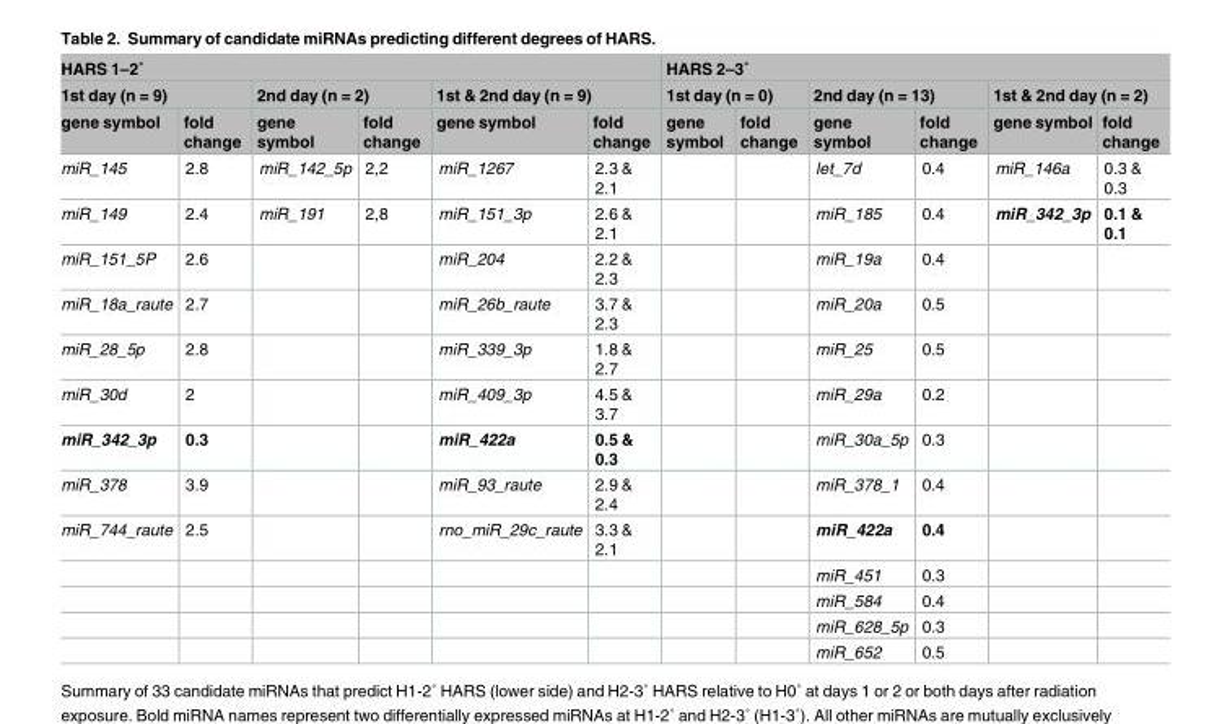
<table><thead><tr><td colspan="6">HARS 1–2˚</td><td colspan="6">HARS 2–3˚</td></tr><tr><td colspan="2">1st day (n = 9)</td><td colspan="2">2nd day (n = 2)</td><td colspan="2">1st &amp; 2nd day (n = 9)</td><td colspan="2">1st day (n = 0)</td><td colspan="2">2nd day (n = 13)</td><td colspan="2">1st &amp; 2nd day (n = 2)</td></tr><tr><td>gene symbol</td><td>fold change</td><td>gene symbol</td><td>fold change</td><td>gene symbol</td><td>fold change</td><td>gene symbol</td><td>fold change</td><td>gene symbol</td><td>fold change</td><td>gene symbol</td><td>fold change</td></tr></thead><tbody><tr><td>miR_145</td><td>2.8</td><td>miR_142_5p</td><td>2,2</td><td>miR_1267</td><td>2.3 &amp; 2.1</td><td></td><td></td><td>let_7d</td><td>0.4</td><td>miR_146a</td><td>0.3 &amp; 0.3</td></tr><tr><td>miR_149</td><td>2.4</td><td>miR_191</td><td>2,8</td><td>miR_151_3p</td><td>2.6 &amp; 2.1</td><td></td><td></td><td>miR_185</td><td>0.4</td><td>miR_342_3p</td><td>0.1 &amp; 0.1</td></tr><tr><td>miR_151_5P</td><td>2.6</td><td></td><td></td><td>miR_204</td><td>2.2 &amp; 2.3</td><td></td><td></td><td>miR_19a</td><td>0.4</td><td></td><td></td></tr><tr><td>miR_18a_raute</td><td>2.7</td><td></td><td></td><td>miR_26b_raute</td><td>3.7 &amp; 2.3</td><td></td><td></td><td>miR_20a</td><td>0.5</td><td></td><td></td></tr><tr><td>miR_28_5p</td><td>2.8</td><td></td><td></td><td>miR_339_3p</td><td>1.8 &amp; 2.7</td><td></td><td></td><td>miR_25</td><td>0.5</td><td></td><td></td></tr><tr><td>miR_30d</td><td>2</td><td></td><td></td><td>miR_409_3p</td><td>4.5 &amp; 3.7</td><td></td><td></td><td>miR_29a</td><td>0.2</td><td></td><td></td></tr><tr><td>miR_342_3p</td><td>0.3</td><td></td><td></td><td>miR_422a</td><td>0.5 &amp; 0.3</td><td></td><td></td><td>miR_30a_5p</td><td>0.3</td><td></td><td></td></tr><tr><td>miR_378</td><td>3.9</td><td></td><td></td><td>miR_93_raute</td><td>2.9 &amp; 2.4</td><td></td><td></td><td>miR_378_1</td><td>0.4</td><td></td><td></td></tr><tr><td rowspan="5">miR_744_raute</td><td>2.5</td><td></td><td></td><td>rno_miR_29c_raute</td><td>3.3 &amp; 2.1</td><td></td><td></td><td>miR_422a</td><td>0.4</td><td></td><td></td></tr><tr><td></td><td></td><td></td><td></td><td></td><td></td><td></td><td>miR_451</td><td>0.3</td><td></td><td></td></tr><tr><td></td><td></td><td></td><td></td><td></td><td></td><td></td><td>miR_584</td><td>0.4</td><td></td><td></td></tr><tr><td></td><td></td><td></td><td></td><td></td><td></td><td></td><td>miR_628_5p</td><td>0.3</td><td></td><td></td></tr><tr><td></td><td></td><td></td><td></td><td></td><td></td><td></td><td>miR_652</td><td>0.5</td><td></td><td></td></tr></tbody></table>